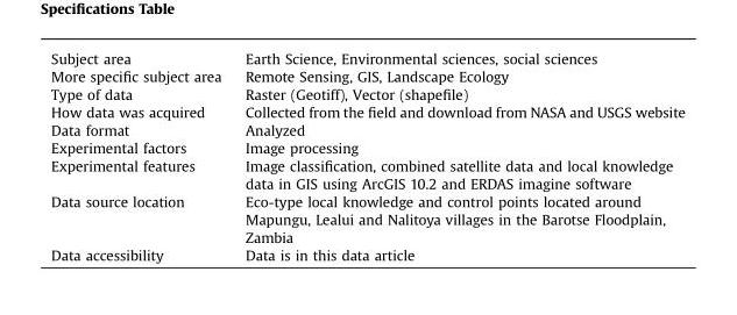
<table><tbody><tr><td>Subject area</td><td>Earth Science, Environmental sciences, social sciences</td></tr><tr><td>More specific subject area</td><td>Remote Sensing, GIS, Landscape Ecology</td></tr><tr><td>Type of data</td><td>Raster (Geotiff), Vector (shapefile)</td></tr><tr><td>How data was acquired</td><td>Collected from the field and download from NASA and USGS website</td></tr><tr><td>Data format</td><td>Analyzed</td></tr><tr><td>Experimental factors</td><td>Image processing</td></tr><tr><td>Experimental features</td><td>Image classification, combined satellite data and local knowledge data in GIS using ArcGIS 10.2 and ERDAS imagine software</td></tr><tr><td>Data source location</td><td>Eco-type local knowledge and control points located around Mapungu, Lealui and Nalitoya villages in the Barotse Floodplain, Zambia</td></tr><tr><td>Data accessibility</td><td>Data is in this data article</td></tr></tbody></table>